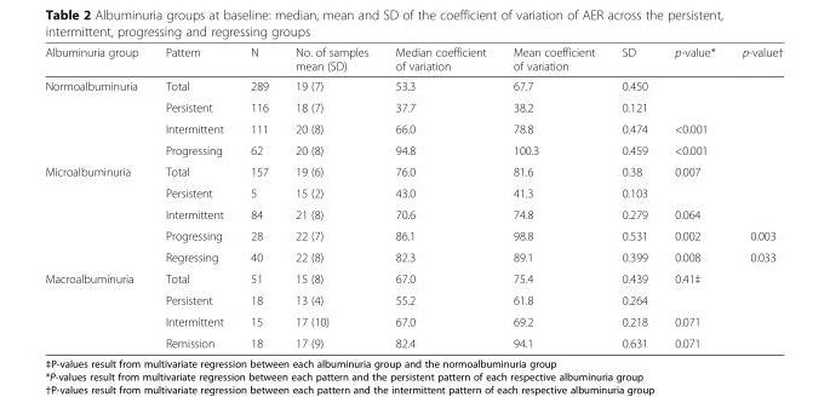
<table><thead><tr><td>Albuminuria group</td><td>Pattern</td><td>N</td><td>No. of samples mean (SD)</td><td>Median coefficient of variation</td><td>Mean coefficient of variation</td><td>SD</td><td>p-value*</td><td>p-value†</td></tr></thead><tbody><tr><td rowspan="4">Normoalbuminuria</td><td>Total</td><td>289</td><td>19 (7)</td><td>53.3</td><td>67.7</td><td>0.450</td><td></td><td></td></tr><tr><td>Persistent</td><td>116</td><td>18 (7)</td><td>37.7</td><td>38.2</td><td>0.121</td><td></td><td></td></tr><tr><td>Intermittent</td><td>111</td><td>20 (8)</td><td>66.0</td><td>78.8</td><td>0.474</td><td>&lt;0.001</td><td></td></tr><tr><td>Progressing</td><td>62</td><td>20 (8)</td><td>94.8</td><td>100.3</td><td>0.459</td><td>&lt;0.001</td><td></td></tr><tr><td rowspan="5">Microalbuminuria</td><td>Total</td><td>157</td><td>19 (6)</td><td>76.0</td><td>81.6</td><td>0.38</td><td>0.007</td><td></td></tr><tr><td>Persistent</td><td>5</td><td>15 (2)</td><td>43.0</td><td>41.3</td><td>0.103</td><td></td><td></td></tr><tr><td>Intermittent</td><td>84</td><td>21 (8)</td><td>70.6</td><td>74.8</td><td>0.279</td><td>0.064</td><td></td></tr><tr><td>Progressing</td><td>28</td><td>22 (7)</td><td>86.1</td><td>98.8</td><td>0.531</td><td>0.002</td><td>0.003</td></tr><tr><td>Regressing</td><td>40</td><td>22 (8)</td><td>82.3</td><td>89.1</td><td>0.399</td><td>0.008</td><td>0.033</td></tr><tr><td rowspan="4">Macroalbuminuria</td><td>Total</td><td>51</td><td>15 (8)</td><td>67.0</td><td>75.4</td><td>0.439</td><td>0.41‡</td><td></td></tr><tr><td>Persistent</td><td>18</td><td>13 (4)</td><td>55.2</td><td>61.8</td><td>0.264</td><td></td><td></td></tr><tr><td>Intermittent</td><td>15</td><td>17 (10)</td><td>67.0</td><td>69.2</td><td>0.218</td><td>0.071</td><td></td></tr><tr><td>Remission</td><td>18</td><td>17 (9)</td><td>82.4</td><td>94.1</td><td>0.631</td><td>0.071</td><td></td></tr></tbody></table>